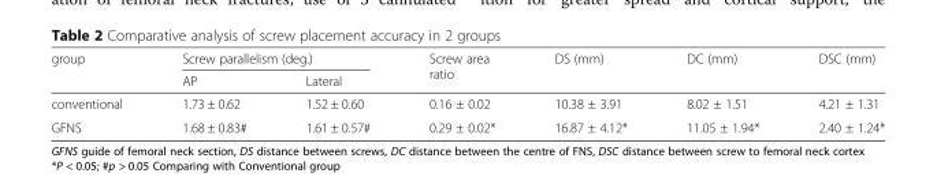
<table><thead><tr><td rowspan="2">group</td><td colspan="2">Screw parallelism (deg.)</td><td rowspan="2">Screw area ratio</td><td rowspan="2">DS (mm)</td><td rowspan="2">DC (mm)</td><td rowspan="2">DSC (mm)</td></tr><tr><td>AP</td><td>Lateral</td></tr></thead><tbody><tr><td>conventional</td><td>1.73 ± 0.62</td><td>1.52 ± 0.60</td><td>0.16 ± 0.02</td><td>10.38 ± 3.91</td><td>8.02 ± 1.51</td><td>4.21 ± 1.31</td></tr><tr><td>GFNS</td><td>1.68 ± 0.83#</td><td>1.61 ± 0.57#</td><td>0.29 ± 0.02*</td><td>16.87 ± 4.12*</td><td>11.05 ± 1.94*</td><td>2.40 ± 1.24*</td></tr></tbody></table>